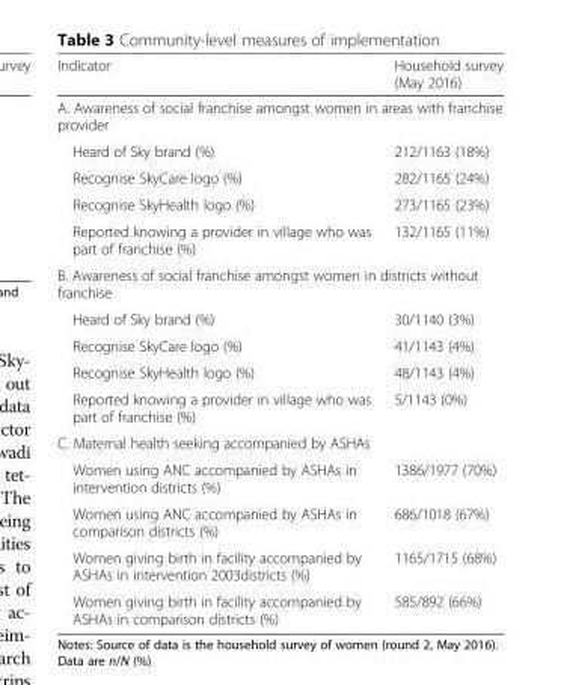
<table><thead><tr><td>Indicator</td><td>Household survey (May 2016)</td></tr></thead><tbody><tr><td colspan="2">A. Awareness of social franchise amongst women in areas with franchise provider</td></tr><tr><td>Heard of Sky brand (%)</td><td>212/1163 (18%)</td></tr><tr><td>Recognise SkyCare logo (%)</td><td>282/1165 (24%)</td></tr><tr><td>Recognise SkyHealth logo (%)</td><td>273/1165 (23%)</td></tr><tr><td>Reported knowing a provider in village who was part of franchise (%)</td><td>132/1165 (11%)</td></tr><tr><td colspan="2">B. Awareness of social franchise amongst women in districts without franchise</td></tr><tr><td>Heard of Sky brand (%)</td><td>30/1140 (3%)</td></tr><tr><td>Recognise SkyCare logo (%)</td><td>41/1143 (4%)</td></tr><tr><td>Recognise SkyHealth logo (%)</td><td>48/1143 (4%)</td></tr><tr><td>Reported knowing a provider in village who was part of franchise (%)</td><td>5/1143 (0%)</td></tr><tr><td colspan="2">C. Maternal health seeking accompanied by ASHAs</td></tr><tr><td>Women using ANC accompanied by ASHAs in intervention districts (%)</td><td>1386/1977 (70%)</td></tr><tr><td>Women using ANC accompanied by ASHAs in comparison districts (%)</td><td>686/1018 (67%)</td></tr><tr><td>Women giving birth in facility accompanied by ASHAs in intervention 2003districts (%)</td><td>1165/1715 (68%)</td></tr><tr><td>Women giving birth in facility accompanied by ASHAs in comparison districts (%)</td><td>585/892 (66%)</td></tr></tbody></table>